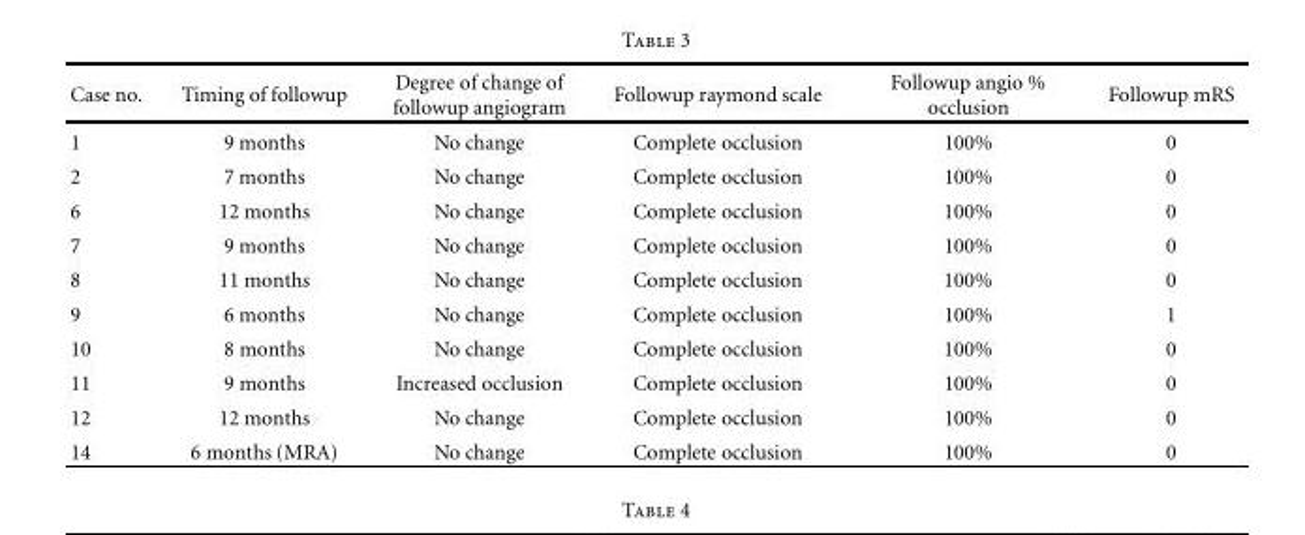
<table><thead><tr><td>Case no.</td><td>Timing of followup</td><td>Degree of change of followup angiogram</td><td>Followup raymond scale</td><td>Followup angio % occlusion</td><td>Followup mRS</td></tr></thead><tbody><tr><td>1</td><td>9 months</td><td>No change</td><td>Complete occlusion</td><td>100%</td><td>0</td></tr><tr><td>2</td><td>7 months</td><td>No change</td><td>Complete occlusion</td><td>100%</td><td>0</td></tr><tr><td>6</td><td>12 months</td><td>No change</td><td>Complete occlusion</td><td>100%</td><td>0</td></tr><tr><td>7</td><td>9 months</td><td>No change</td><td>Complete occlusion</td><td>100%</td><td>0</td></tr><tr><td>8</td><td>11 months</td><td>No change</td><td>Complete occlusion</td><td>100%</td><td>0</td></tr><tr><td>9</td><td>6 months</td><td>No change</td><td>Complete occlusion</td><td>100%</td><td>1</td></tr><tr><td>10</td><td>8 months</td><td>No change</td><td>Complete occlusion</td><td>100%</td><td>0</td></tr><tr><td>11</td><td>9 months</td><td>Increased occlusion</td><td>Complete occlusion</td><td>100%</td><td>0</td></tr><tr><td>12</td><td>12 months</td><td>No change</td><td>Complete occlusion</td><td>100%</td><td>0</td></tr><tr><td>14</td><td>6 months (MRA)</td><td>No change</td><td>Complete occlusion</td><td>100%</td><td>0</td></tr></tbody></table>